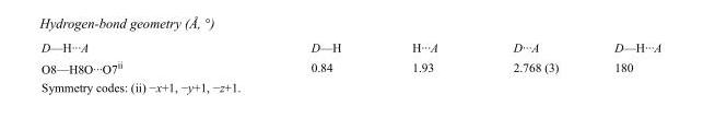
<table><tbody><tr><td>D—H···A</td><td>D—H</td><td>H···A</td><td>D···A</td><td>D—H···A</td></tr><tr><td>O8—H8O···O7<sup>ii</sup></td><td>0.84</td><td>1.93</td><td>2.768 (3)</td><td>180</td></tr></tbody></table>